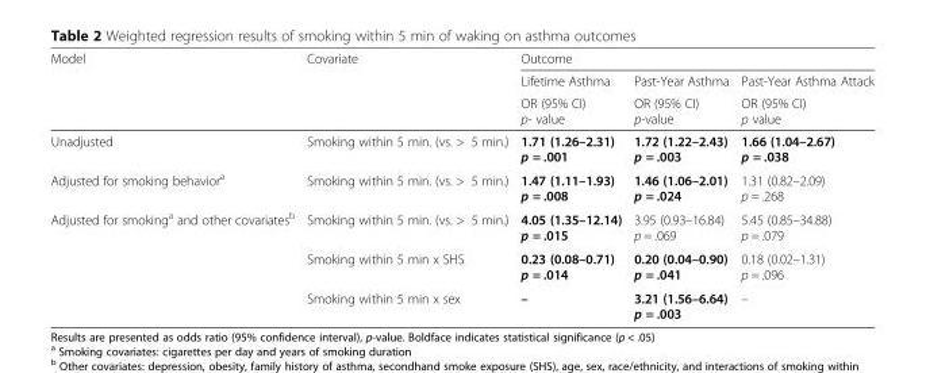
<table><thead><tr><td rowspan="3">Model</td><td rowspan="3">Covariate</td><td colspan="3">Outcome</td></tr><tr><td rowspan="2">Lifetime Asthma OR (95% CI) p- value</td><td rowspan="2">Past-Year Asthma OR (95% CI) p-value</td><td rowspan="2">Past-Year Asthma Attack OR (95% CI) p value</td></tr><tr></tr></thead><tbody><tr><td>Unadjusted</td><td>Smoking within 5 min. (vs. &gt; 5 min.)</td><td>1.71 (1.26–2.31) p = .001</td><td>1.72 (1.22–2.43) p = .003</td><td>1.66 (1.04–2.67) p = .038</td></tr><tr><td>Adjusted for smoking behavior<sup>a</sup></td><td>Smoking within 5 min. (vs. &gt; 5 min.)</td><td>1.47 (1.11–1.93) p = .008</td><td>1.46 (1.06–2.01) p = .024</td><td>1.31 (0.82–2.09) p = .268</td></tr><tr><td rowspan="3">Adjusted for smoking<sup>a</sup> and other covariates<sup>b</sup></td><td>Smoking within 5 min. (vs. &gt; 5 min.)</td><td>4.05 (1.35–12.14) p = .015</td><td>3.95 (0.93–16.84) p = .069</td><td>5.45 (0.85–34.88) p = .079</td></tr><tr><td>Smoking within 5 min x SHS</td><td>0.23 (0.08–0.71) p = .014</td><td>0.20 (0.04–0.90) p = .041</td><td>0.18 (0.02–1.31) p = .096</td></tr><tr><td>Smoking within 5 min x sex</td><td>–</td><td>3.21 (1.56–6.64) p = .003</td><td>–</td></tr></tbody></table>